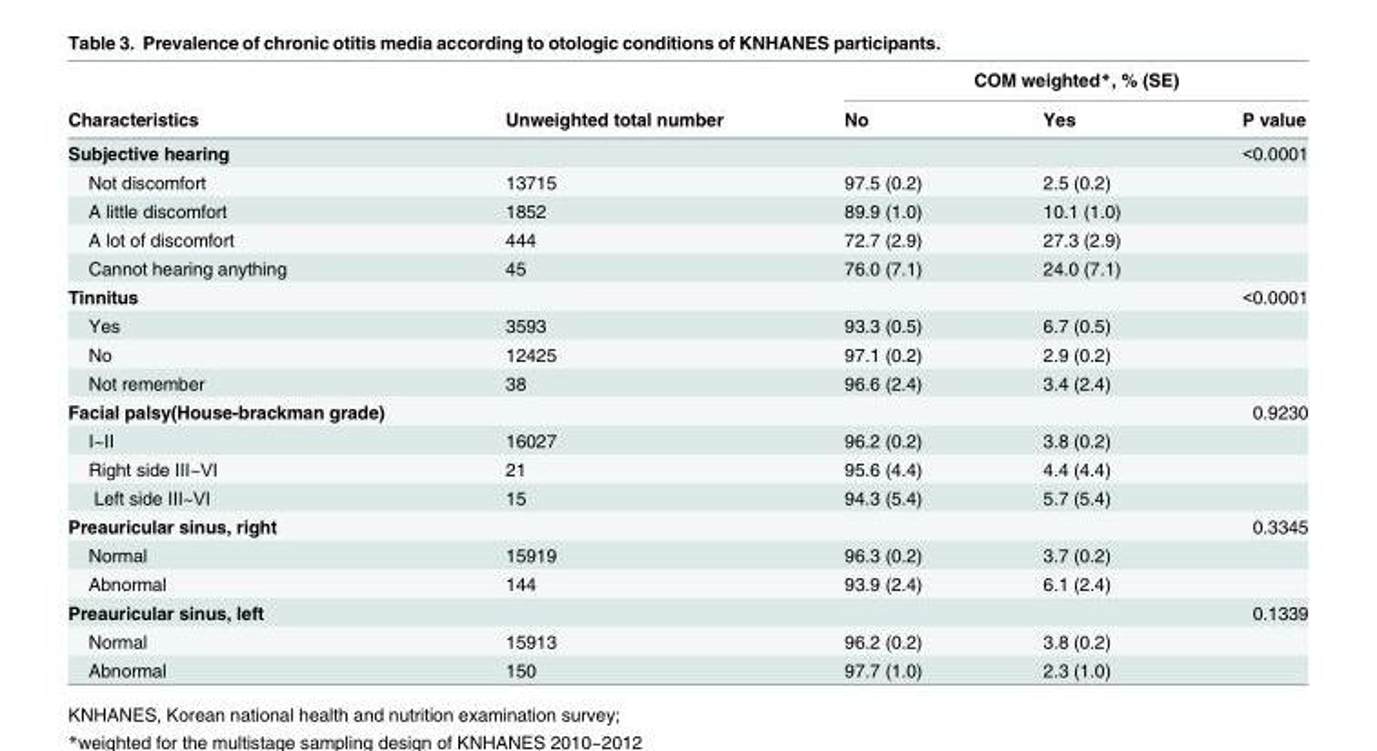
<table><thead><tr><td rowspan="2">Characteristics</td><td rowspan="2">Unweighted total number</td><td colspan="3">COM weighted*, % (SE)</td></tr><tr><td>No</td><td>Yes</td><td>P value</td></tr></thead><tbody><tr><td>Subjective hearing</td><td></td><td></td><td></td><td>&lt;0.0001</td></tr><tr><td>Not discomfort</td><td>13715</td><td>97.5 (0.2)</td><td>2.5 (0.2)</td><td></td></tr><tr><td>A little discomfort</td><td>1852</td><td>89.9 (1.0)</td><td>10.1 (1.0)</td><td></td></tr><tr><td>A lot of discomfort</td><td>444</td><td>72.7 (2.9)</td><td>27.3 (2.9)</td><td></td></tr><tr><td>Cannot hearing anything</td><td>45</td><td>76.0 (7.1)</td><td>24.0 (7.1)</td><td></td></tr><tr><td>Tinnitus</td><td></td><td></td><td></td><td>&lt;0.0001</td></tr><tr><td>Yes</td><td>3593</td><td>93.3 (0.5)</td><td>6.7 (0.5)</td><td></td></tr><tr><td>No</td><td>12425</td><td>97.1 (0.2)</td><td>2.9 (0.2)</td><td></td></tr><tr><td>Not remember</td><td>38</td><td>96.6 (2.4)</td><td>3.4 (2.4)</td><td></td></tr><tr><td>Facial palsy(House-brackman grade)</td><td></td><td></td><td></td><td>0.9230</td></tr><tr><td>Ⅰ~Ⅱ</td><td>16027</td><td>96.2 (0.2)</td><td>3.8 (0.2)</td><td></td></tr><tr><td>Right side Ⅲ~Ⅵ</td><td>21</td><td>95.6 (4.4)</td><td>4.4 (4.4)</td><td></td></tr><tr><td>Left side Ⅲ~Ⅵ</td><td>15</td><td>94.3 (5.4)</td><td>5.7 (5.4)</td><td></td></tr><tr><td>Preauricular sinus, right</td><td></td><td></td><td></td><td>0.3345</td></tr><tr><td>Normal</td><td>15919</td><td>96.3 (0.2)</td><td>3.7 (0.2)</td><td></td></tr><tr><td>Abnormal</td><td>144</td><td>93.9 (2.4)</td><td>6.1 (2.4)</td><td></td></tr><tr><td>Preauricular sinus, left</td><td></td><td></td><td></td><td>0.1339</td></tr><tr><td>Normal</td><td>15913</td><td>96.2 (0.2)</td><td>3.8 (0.2)</td><td></td></tr><tr><td>Abnormal</td><td>150</td><td>97.7 (1.0)</td><td>2.3 (1.0)</td><td></td></tr></tbody></table>